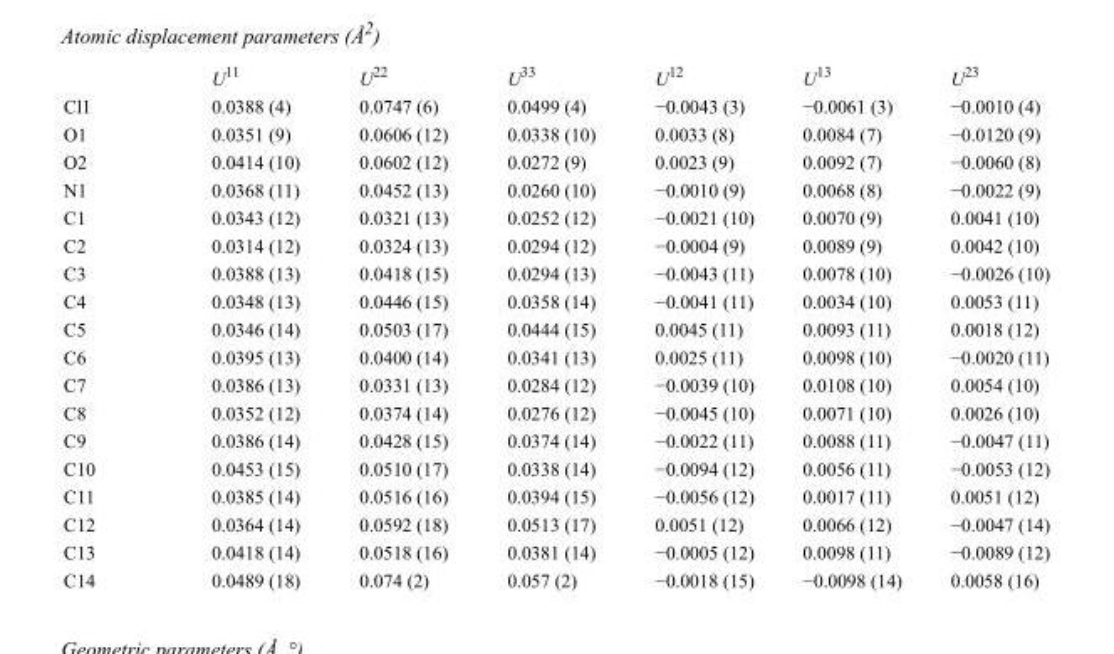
<table><thead><tr><td></td><td>U<sup>11</sup></td><td>U<sup>22</sup></td><td>U<sup>33</sup></td><td>U<sup>12</sup></td><td>U<sup>13</sup></td><td>U<sup>23</sup></td></tr></thead><tbody><tr><td>Cl1</td><td>0.0388 (4)</td><td>0.0747 (6)</td><td>0.0499 (4)</td><td>−0.0043 (3)</td><td>−0.0061 (3)</td><td>−0.0010 (4)</td></tr><tr><td>O1</td><td>0.0351 (9)</td><td>0.0606 (12)</td><td>0.0338 (10)</td><td>0.0033 (8)</td><td>0.0084 (7)</td><td>−0.0120 (9)</td></tr><tr><td>O2</td><td>0.0414 (10)</td><td>0.0602 (12)</td><td>0.0272 (9)</td><td>0.0023 (9)</td><td>0.0092 (7)</td><td>−0.0060 (8)</td></tr><tr><td>N1</td><td>0.0368 (11)</td><td>0.0452 (13)</td><td>0.0260 (10)</td><td>−0.0010 (9)</td><td>0.0068 (8)</td><td>−0.0022 (9)</td></tr><tr><td>C1</td><td>0.0343 (12)</td><td>0.0321 (13)</td><td>0.0252 (12)</td><td>−0.0021 (10)</td><td>0.0070 (9)</td><td>0.0041 (10)</td></tr><tr><td>C2</td><td>0.0314 (12)</td><td>0.0324 (13)</td><td>0.0294 (12)</td><td>−0.0004 (9)</td><td>0.0089 (9)</td><td>0.0042 (10)</td></tr><tr><td>C3</td><td>0.0388 (13)</td><td>0.0418 (15)</td><td>0.0294 (13)</td><td>−0.0043 (11)</td><td>0.0078 (10)</td><td>−0.0026 (10)</td></tr><tr><td>C4</td><td>0.0348 (13)</td><td>0.0446 (15)</td><td>0.0358 (14)</td><td>−0.0041 (11)</td><td>0.0034 (10)</td><td>0.0053 (11)</td></tr><tr><td>C5</td><td>0.0346 (14)</td><td>0.0503 (17)</td><td>0.0444 (15)</td><td>0.0045 (11)</td><td>0.0093 (11)</td><td>0.0018 (12)</td></tr><tr><td>C6</td><td>0.0395 (13)</td><td>0.0400 (14)</td><td>0.0341 (13)</td><td>0.0025 (11)</td><td>0.0098 (10)</td><td>−0.0020 (11)</td></tr><tr><td>C7</td><td>0.0386 (13)</td><td>0.0331 (13)</td><td>0.0284 (12)</td><td>−0.0039 (10)</td><td>0.0108 (10)</td><td>0.0054 (10)</td></tr><tr><td>C8</td><td>0.0352 (12)</td><td>0.0374 (14)</td><td>0.0276 (12)</td><td>−0.0045 (10)</td><td>0.0071 (10)</td><td>0.0026 (10)</td></tr><tr><td>C9</td><td>0.0386 (14)</td><td>0.0428 (15)</td><td>0.0374 (14)</td><td>−0.0022 (11)</td><td>0.0088 (11)</td><td>−0.0047 (11)</td></tr><tr><td>C10</td><td>0.0453 (15)</td><td>0.0510 (17)</td><td>0.0338 (14)</td><td>−0.0094 (12)</td><td>0.0056 (11)</td><td>−0.0053 (12)</td></tr><tr><td>C11</td><td>0.0385 (14)</td><td>0.0516 (16)</td><td>0.0394 (15)</td><td>−0.0056 (12)</td><td>0.0017 (11)</td><td>0.0051 (12)</td></tr><tr><td>C12</td><td>0.0364 (14)</td><td>0.0592 (18)</td><td>0.0513 (17)</td><td>0.0051 (12)</td><td>0.0066 (12)</td><td>−0.0047 (14)</td></tr><tr><td>C13</td><td>0.0418 (14)</td><td>0.0518 (16)</td><td>0.0381 (14)</td><td>−0.0005 (12)</td><td>0.0098 (11)</td><td>−0.0089 (12)</td></tr><tr><td>C14</td><td>0.0489 (18)</td><td>0.074 (2)</td><td>0.057 (2)</td><td>−0.0018 (15)</td><td>−0.0098 (14)</td><td>0.0058 (16)</td></tr></tbody></table>